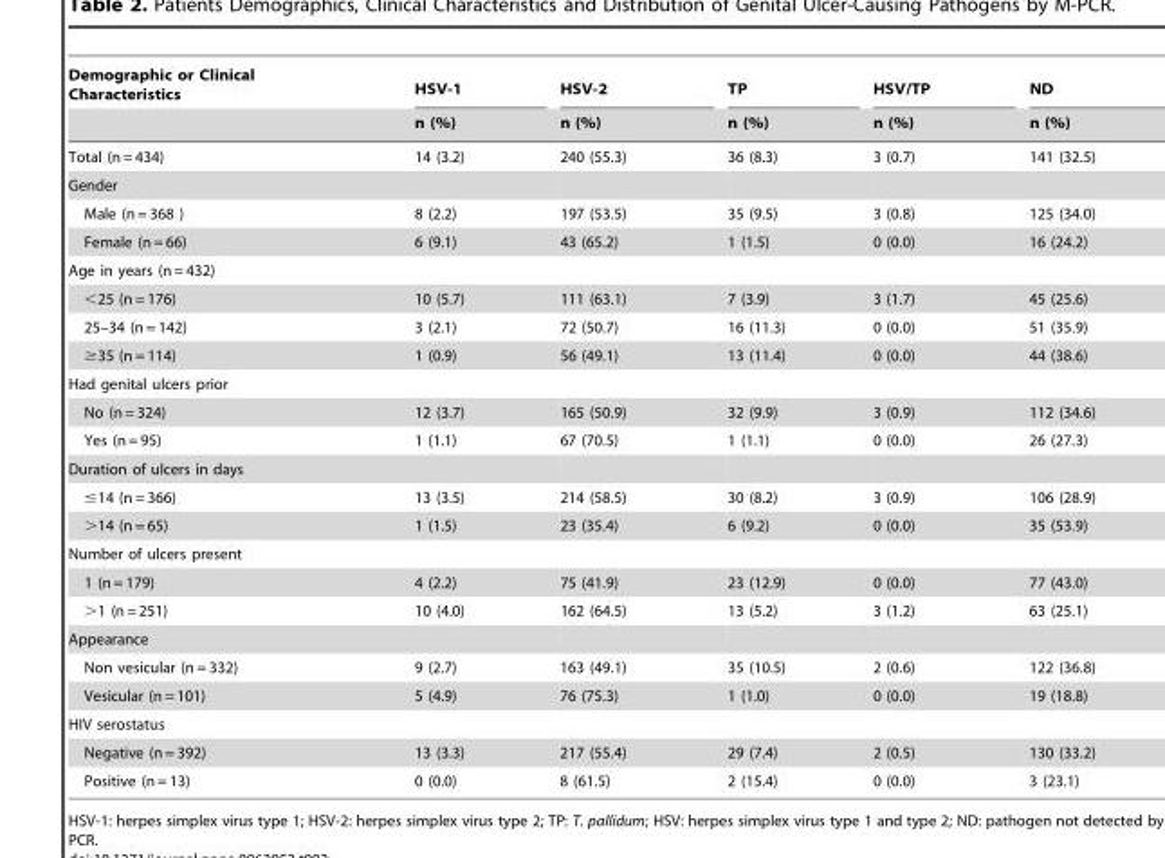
<table><thead><tr><td rowspan="2">Demographic or Clinical Characteristics</td><td rowspan="2">HSV-1 n (%)</td><td rowspan="2">HSV-2 n (%)</td><td rowspan="2">TP n (%)</td><td rowspan="2">HSV/TP n (%)</td><td rowspan="2">ND n (%)</td></tr><tr></tr></thead><tbody><tr><td>Total (n = 434)</td><td>14 (3.2)</td><td>240 (55.3)</td><td>36 (8.3)</td><td>3 (0.7)</td><td>141 (32.5)</td></tr><tr><td colspan="6">Gender</td></tr><tr><td>Male (n = 368 )</td><td>8 (2.2)</td><td>197 (53.5)</td><td>35 (9.5)</td><td>3 (0.8)</td><td>125 (34.0)</td></tr><tr><td>Female (n = 66)</td><td>6 (9.1)</td><td>43 (65.2)</td><td>1 (1.5)</td><td>0 (0.0)</td><td>16 (24.2)</td></tr><tr><td colspan="6">Age in years (n = 432)</td></tr><tr><td>&lt;25 (n = 176)</td><td>10 (5.7)</td><td>111 (63.1)</td><td>7 (3.9)</td><td>3 (1.7)</td><td>45 (25.6)</td></tr><tr><td>25–34 (n = 142)</td><td>3 (2.1)</td><td>72 (50.7)</td><td>16 (11.3)</td><td>0 (0.0)</td><td>51 (35.9)</td></tr><tr><td>≥35 (n = 114)</td><td>1 (0.9)</td><td>56 (49.1)</td><td>13 (11.4)</td><td>0 (0.0)</td><td>44 (38.6)</td></tr><tr><td colspan="6">Had genital ulcers prior</td></tr><tr><td>No (n = 324)</td><td>12 (3.7)</td><td>165 (50.9)</td><td>32 (9.9)</td><td>3 (0.9)</td><td>112 (34.6)</td></tr><tr><td>Yes (n = 95)</td><td>1 (1.1)</td><td>67 (70.5)</td><td>1 (1.1)</td><td>0 (0.0)</td><td>26 (27.3)</td></tr><tr><td colspan="6">Duration of ulcers in days</td></tr><tr><td>≤14 (n = 366)</td><td>13 (3.5)</td><td>214 (58.5)</td><td>30 (8.2)</td><td>3 (0.9)</td><td>106 (28.9)</td></tr><tr><td>&gt;14 (n = 65)</td><td>1 (1.5)</td><td>23 (35.4)</td><td>6 (9.2)</td><td>0 (0.0)</td><td>35 (53.9)</td></tr><tr><td colspan="6">Number of ulcers present</td></tr><tr><td>1 (n = 179)</td><td>4 (2.2)</td><td>75 (41.9)</td><td>23 (12.9)</td><td>0 (0.0)</td><td>77 (43.0)</td></tr><tr><td>&gt;1 (n = 251)</td><td>10 (4.0)</td><td>162 (64.5)</td><td>13 (5.2)</td><td>3 (1.2)</td><td>63 (25.1)</td></tr><tr><td colspan="6">Appearance</td></tr><tr><td>Non vesicular (n = 332)</td><td>9 (2.7)</td><td>163 (49.1)</td><td>35 (10.5)</td><td>2 (0.6)</td><td>122 (36.8)</td></tr><tr><td>Vesicular (n = 101)</td><td>5 (4.9)</td><td>76 (75.3)</td><td>1 (1.0)</td><td>0 (0.0)</td><td>19 (18.8)</td></tr><tr><td colspan="6">HIV serostatus</td></tr><tr><td>Negative (n = 392)</td><td>13 (3.3)</td><td>217 (55.4)</td><td>29 (7.4)</td><td>2 (0.5)</td><td>130 (33.2)</td></tr><tr><td>Positive (n = 13)</td><td>0 (0.0)</td><td>8 (61.5)</td><td>2 (15.4)</td><td>0 (0.0)</td><td>3 (23.1)</td></tr></tbody></table>